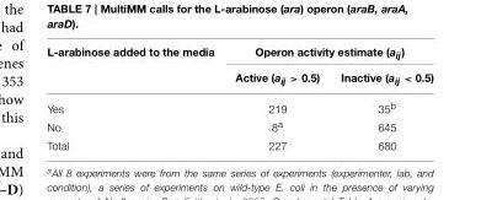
<table><thead><tr><td rowspan="2">L-arabinose added to the media</td><td colspan="2">Operon activity estimate (a<sub>ij</sub>)</td></tr><tr><td>Active (a<sub>ij</sub> &gt; 0.5)</td><td>Inactive (a<sub>ij</sub> &lt; 0.5)</td></tr></thead><tbody><tr><td>Yes</td><td>219</td><td>35<sup>b</sup></td></tr><tr><td>No</td><td>8<sup>a</sup></td><td>645</td></tr><tr><td>Total</td><td>227</td><td>680</td></tr></tbody></table>